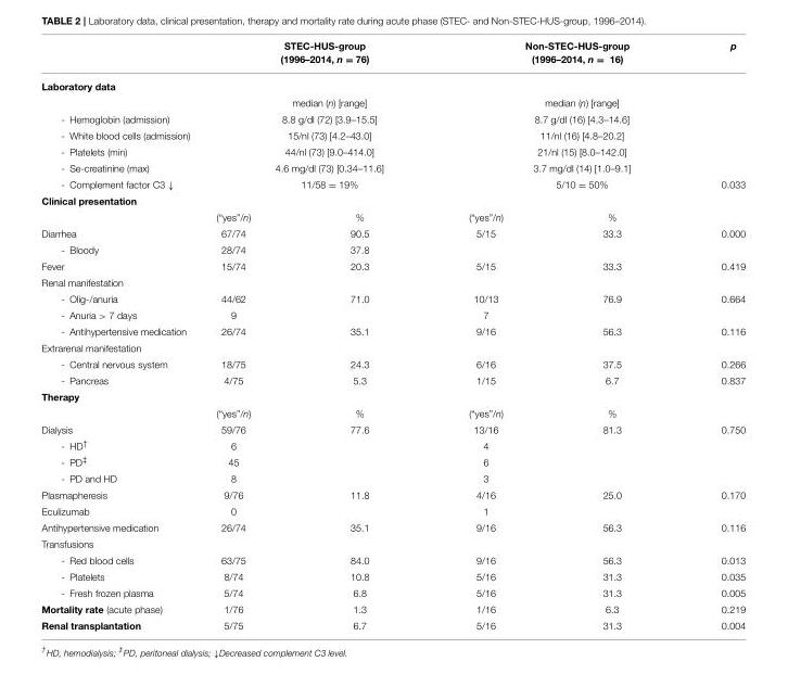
<table><thead><tr><td></td><td colspan="2">STEC-HUS-group (1996–2014, n = 76)</td><td colspan="2">Non-STEC-HUS-group (1996–2014, n = 16)</td><td>p</td></tr></thead><tbody><tr><td colspan="6">Laboratory data</td></tr><tr><td></td><td colspan="2">median (n) [range]</td><td colspan="2">median (n) [range]</td><td></td></tr><tr><td>- Hemoglobin (admission)</td><td colspan="2">8.8 g/dl (72) [3.9–15.5]</td><td colspan="2">8.7 g/dl (16) [4.3–14.6]</td><td></td></tr><tr><td>- White blood cells (admission)</td><td colspan="2">15/nl (73) [4.2–43.0]</td><td colspan="2">11/nl (16) [4.8–20.2]</td><td></td></tr><tr><td>- Platelets (min)</td><td colspan="2">44/nl (73) [9.0–414.0]</td><td colspan="2">21/nl (15) [8.0–142.0]</td><td></td></tr><tr><td>- Se-creatinine (max)</td><td colspan="2">4.6 mg/dl (73) [0.34–11.6]</td><td colspan="2">3.7 mg/dl (14) [1.0–9.1]</td><td></td></tr><tr><td>- Complement factor C3 ↓</td><td colspan="2">11/58 = 19%</td><td colspan="2">5/10 = 50%</td><td>0.033</td></tr><tr><td colspan="6">Clinical presentation</td></tr><tr><td></td><td>(“yes”/n)</td><td>%</td><td>(“yes”/n)</td><td>%</td><td></td></tr><tr><td>Diarrhea</td><td>67/74</td><td>90.5</td><td>5/15</td><td>33.3</td><td>0.000</td></tr><tr><td>- Bloody</td><td>28/74</td><td>37.8</td><td></td><td></td><td></td></tr><tr><td>Fever</td><td>15/74</td><td>20.3</td><td>5/15</td><td>33.3</td><td>0.419</td></tr><tr><td colspan="6">Renal manifestation</td></tr><tr><td>- Olig-/anuria</td><td>44/62</td><td>71.0</td><td>10/13</td><td>76.9</td><td>0.664</td></tr><tr><td>- Anuria &gt; 7 days</td><td>9</td><td></td><td>7</td><td></td><td></td></tr><tr><td>- Antihypertensive medication</td><td>26/74</td><td>35.1</td><td>9/16</td><td>56.3</td><td>0.116</td></tr><tr><td colspan="6">Extrarenal manifestation</td></tr><tr><td>- Central nervous system</td><td>18/75</td><td>24.3</td><td>6/16</td><td>37.5</td><td>0.266</td></tr><tr><td>- Pancreas</td><td>4/75</td><td>5.3</td><td>1/15</td><td>6.7</td><td>0.837</td></tr><tr><td colspan="6">Therapy</td></tr><tr><td></td><td>(“yes”/n)</td><td>%</td><td>(“yes”/n)</td><td>%</td><td></td></tr><tr><td>Dialysis</td><td>59/76</td><td>77.6</td><td>13/16</td><td>81.3</td><td>0.750</td></tr><tr><td>- HD<sup>†</sup></td><td>6</td><td></td><td>4</td><td></td><td></td></tr><tr><td>- PD<sup>‡</sup></td><td>45</td><td></td><td>6</td><td></td><td></td></tr><tr><td>- PD and HD</td><td>8</td><td></td><td>3</td><td></td><td></td></tr><tr><td>Plasmapheresis</td><td>9/76</td><td>11.8</td><td>4/16</td><td>25.0</td><td>0.170</td></tr><tr><td>Eculizumab</td><td>0</td><td></td><td>1</td><td></td><td></td></tr><tr><td>Antihypertensive medication</td><td>26/74</td><td>35.1</td><td>9/16</td><td>56.3</td><td>0.116</td></tr><tr><td colspan="6">Transfusions</td></tr><tr><td>- Red blood cells</td><td>63/75</td><td>84.0</td><td>9/16</td><td>56.3</td><td>0.013</td></tr><tr><td>- Platelets</td><td>8/74</td><td>10.8</td><td>5/16</td><td>31.3</td><td>0.035</td></tr><tr><td>- Fresh frozen plasma</td><td>5/74</td><td>6.8</td><td>5/16</td><td>31.3</td><td>0.005</td></tr><tr><td>Mortality rate (acute phase)</td><td>1/76</td><td>1.3</td><td>1/16</td><td>6.3</td><td>0.219</td></tr><tr><td>Renal transplantation</td><td>5/75</td><td>6.7</td><td>5/16</td><td>31.3</td><td>0.004</td></tr></tbody></table>